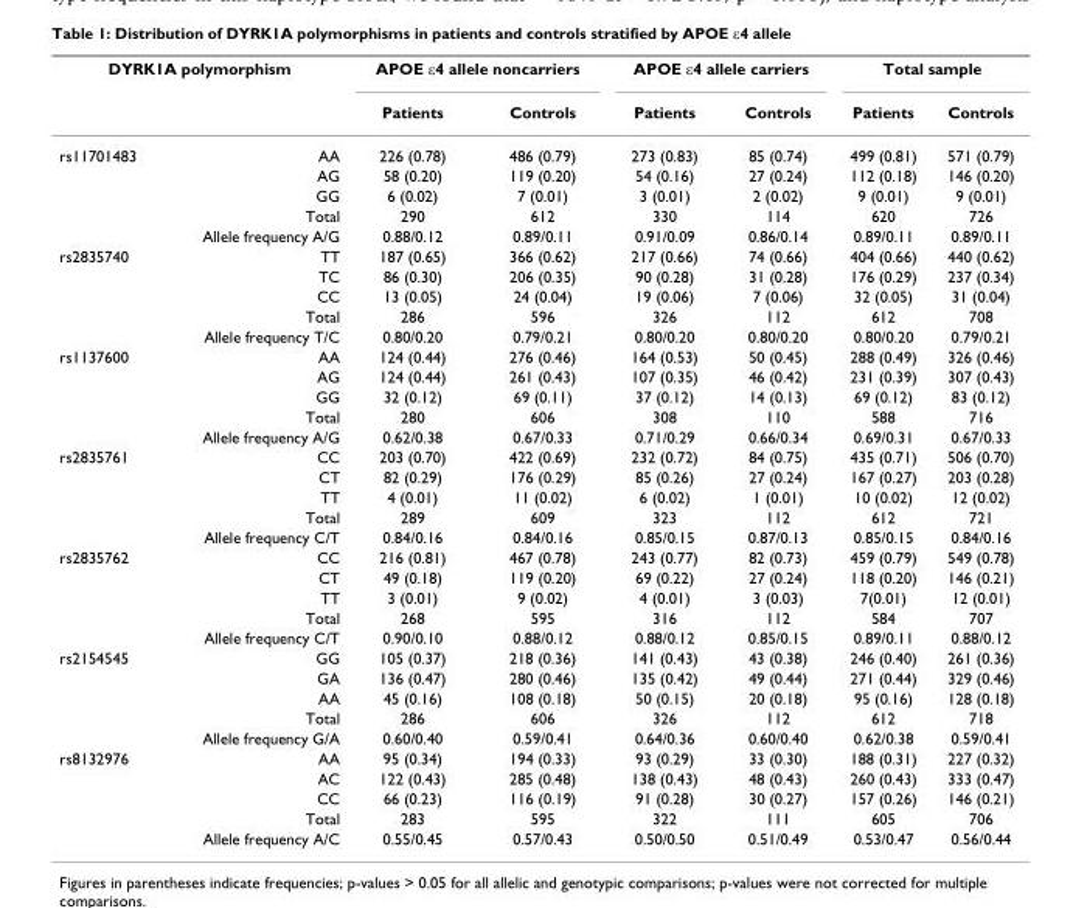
<table><thead><tr><td colspan="2">DYRK1A polymorphism</td><td colspan="2">APOE ε4 allele noncarriers</td><td colspan="2">APOE ε4 allele carriers</td><td colspan="2">Total sample</td></tr><tr><td></td><td></td><td>Patients</td><td>Controls</td><td>Patients</td><td>Controls</td><td>Patients</td><td>Controls</td></tr></thead><tbody><tr><td rowspan="5">rs11701483</td><td>AA</td><td>226 (0.78)</td><td>486 (0.79)</td><td>273 (0.83)</td><td>85 (0.74)</td><td>499 (0.81)</td><td>571 (0.79)</td></tr><tr><td>AG</td><td>58 (0.20)</td><td>119 (0.20)</td><td>54 (0.16)</td><td>27 (0.24)</td><td>112 (0.18)</td><td>146 (0.20)</td></tr><tr><td>GG</td><td>6 (0.02)</td><td>7 (0.01)</td><td>3 (0.01)</td><td>2 (0.02)</td><td>9 (0.01)</td><td>9 (0.01)</td></tr><tr><td>Total</td><td>290</td><td>612</td><td>330</td><td>114</td><td>620</td><td>726</td></tr><tr><td>Allele frequency A/G</td><td>0.88/0.12</td><td>0.89/0.11</td><td>0.91/0.09</td><td>0.86/0.14</td><td>0.89/0.11</td><td>0.89/0.11</td></tr><tr><td rowspan="5">rs2835740</td><td>TT</td><td>187 (0.65)</td><td>366 (0.62)</td><td>217 (0.66)</td><td>74 (0.66)</td><td>404 (0.66)</td><td>440 (0.62)</td></tr><tr><td>TC</td><td>86 (0.30)</td><td>206 (0.35)</td><td>90 (0.28)</td><td>31 (0.28)</td><td>176 (0.29)</td><td>237 (0.34)</td></tr><tr><td>CC</td><td>13 (0.05)</td><td>24 (0.04)</td><td>19 (0.06)</td><td>7 (0.06)</td><td>32 (0.05)</td><td>31 (0.04)</td></tr><tr><td>Total</td><td>286</td><td>596</td><td>326</td><td>112</td><td>612</td><td>708</td></tr><tr><td>Allele frequency T/C</td><td>0.80/0.20</td><td>0.79/0.21</td><td>0.80/0.20</td><td>0.80/0.20</td><td>0.80/0.20</td><td>0.79/0.21</td></tr><tr><td rowspan="5">rs1137600</td><td>AA</td><td>124 (0.44)</td><td>276 (0.46)</td><td>164 (0.53)</td><td>50 (0.45)</td><td>288 (0.49)</td><td>326 (0.46)</td></tr><tr><td>AG</td><td>124 (0.44)</td><td>261 (0.43)</td><td>107 (0.35)</td><td>46 (0.42)</td><td>231 (0.39)</td><td>307 (0.43)</td></tr><tr><td>GG</td><td>32 (0.12)</td><td>69 (0.11)</td><td>37 (0.12)</td><td>14 (0.13)</td><td>69 (0.12)</td><td>83 (0.12)</td></tr><tr><td>Total</td><td>280</td><td>606</td><td>308</td><td>110</td><td>588</td><td>716</td></tr><tr><td>Allele frequency A/G</td><td>0.62/0.38</td><td>0.67/0.33</td><td>0.71/0.29</td><td>0.66/0.34</td><td>0.69/0.31</td><td>0.67/0.33</td></tr><tr><td rowspan="5">rs2835761</td><td>CC</td><td>203 (0.70)</td><td>422 (0.69)</td><td>232 (0.72)</td><td>84 (0.75)</td><td>435 (0.71)</td><td>506 (0.70)</td></tr><tr><td>CT</td><td>82 (0.29)</td><td>176 (0.29)</td><td>85 (0.26)</td><td>27 (0.24)</td><td>167 (0.27)</td><td>203 (0.28)</td></tr><tr><td>TT</td><td>4 (0.01)</td><td>11 (0.02)</td><td>6 (0.02)</td><td>1 (0.01)</td><td>10 (0.02)</td><td>12 (0.02)</td></tr><tr><td>Total</td><td>289</td><td>609</td><td>323</td><td>112</td><td>612</td><td>721</td></tr><tr><td>Allele frequency C/T</td><td>0.84/0.16</td><td>0.84/0.16</td><td>0.85/0.15</td><td>0.87/0.13</td><td>0.85/0.15</td><td>0.84/0.16</td></tr><tr><td rowspan="5">rs2835762</td><td>CC</td><td>216 (0.81)</td><td>467 (0.78)</td><td>243 (0.77)</td><td>82 (0.73)</td><td>459 (0.79)</td><td>549 (0.78)</td></tr><tr><td>CT</td><td>49 (0.18)</td><td>119 (0.20)</td><td>69 (0.22)</td><td>27 (0.24)</td><td>118 (0.20)</td><td>146 (0.21)</td></tr><tr><td>TT</td><td>3 (0.01)</td><td>9 (0.02)</td><td>4 (0.01)</td><td>3 (0.03)</td><td>7(0.01)</td><td>12 (0.01)</td></tr><tr><td>Total</td><td>268</td><td>595</td><td>316</td><td>112</td><td>584</td><td>707</td></tr><tr><td>Allele frequency C/T</td><td>0.90/0.10</td><td>0.88/0.12</td><td>0.88/0.12</td><td>0.85/0.15</td><td>0.89/0.11</td><td>0.88/0.12</td></tr><tr><td rowspan="5">rs2154545</td><td>GG</td><td>105 (0.37)</td><td>218 (0.36)</td><td>141 (0.43)</td><td>43 (0.38)</td><td>246 (0.40)</td><td>261 (0.36)</td></tr><tr><td>GA</td><td>136 (0.47)</td><td>280 (0.46)</td><td>135 (0.42)</td><td>49 (0.44)</td><td>271 (0.44)</td><td>329 (0.46)</td></tr><tr><td>AA</td><td>45 (0.16)</td><td>108 (0.18)</td><td>50 (0.15)</td><td>20 (0.18)</td><td>95 (0.16)</td><td>128 (0.18)</td></tr><tr><td>Total</td><td>286</td><td>606</td><td>326</td><td>112</td><td>612</td><td>718</td></tr><tr><td>Allele frequency G/A</td><td>0.60/0.40</td><td>0.59/0.41</td><td>0.64/0.36</td><td>0.60/0.40</td><td>0.62/0.38</td><td>0.59/0.41</td></tr><tr><td rowspan="5">rs8132976</td><td>AA</td><td>95 (0.34)</td><td>194 (0.33)</td><td>93 (0.29)</td><td>33 (0.30)</td><td>188 (0.31)</td><td>227 (0.32)</td></tr><tr><td>AC</td><td>122 (0.43)</td><td>285 (0.48)</td><td>138 (0.43)</td><td>48 (0.43)</td><td>260 (0.43)</td><td>333 (0.47)</td></tr><tr><td>CC</td><td>66 (0.23)</td><td>116 (0.19)</td><td>91 (0.28)</td><td>30 (0.27)</td><td>157 (0.26)</td><td>146 (0.21)</td></tr><tr><td>Total</td><td>283</td><td>595</td><td>322</td><td>111</td><td>605</td><td>706</td></tr><tr><td>Allele frequency A/C</td><td>0.55/0.45</td><td>0.57/0.43</td><td>0.50/0.50</td><td>0.51/0.49</td><td>0.53/0.47</td><td>0.56/0.44</td></tr></tbody></table>